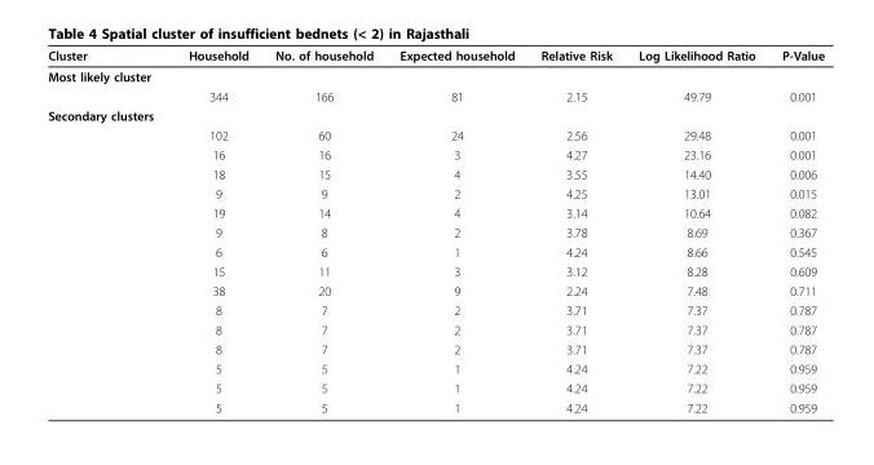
<table><thead><tr><td>Cluster</td><td>Household</td><td>No. of household</td><td>Expected household</td><td>Relative Risk</td><td>Log Likelihood Ratio</td><td>P-Value</td></tr></thead><tbody><tr><td colspan="7">Most likely cluster</td></tr><tr><td></td><td>344</td><td>166</td><td>81</td><td>2.15</td><td>49.79</td><td>0.001</td></tr><tr><td colspan="7">Secondary clusters</td></tr><tr><td></td><td>102</td><td>60</td><td>24</td><td>2.56</td><td>29.48</td><td>0.001</td></tr><tr><td></td><td>16</td><td>16</td><td>3</td><td>4.27</td><td>23.16</td><td>0.001</td></tr><tr><td></td><td>18</td><td>15</td><td>4</td><td>3.55</td><td>14.40</td><td>0.006</td></tr><tr><td></td><td>9</td><td>9</td><td>2</td><td>4.25</td><td>13.01</td><td>0.015</td></tr><tr><td></td><td>19</td><td>14</td><td>4</td><td>3.14</td><td>10.64</td><td>0.082</td></tr><tr><td></td><td>9</td><td>8</td><td>2</td><td>3.78</td><td>8.69</td><td>0.367</td></tr><tr><td></td><td>6</td><td>6</td><td>1</td><td>4.24</td><td>8.66</td><td>0.545</td></tr><tr><td></td><td>15</td><td>11</td><td>3</td><td>3.12</td><td>8.28</td><td>0.609</td></tr><tr><td></td><td>38</td><td>20</td><td>9</td><td>2.24</td><td>7.48</td><td>0.711</td></tr><tr><td></td><td>8</td><td>7</td><td>2</td><td>3.71</td><td>7.37</td><td>0.787</td></tr><tr><td></td><td>8</td><td>7</td><td>2</td><td>3.71</td><td>7.37</td><td>0.787</td></tr><tr><td></td><td>8</td><td>7</td><td>2</td><td>3.71</td><td>7.37</td><td>0.787</td></tr><tr><td></td><td>5</td><td>5</td><td>1</td><td>4.24</td><td>7.22</td><td>0.959</td></tr><tr><td></td><td>5</td><td>5</td><td>1</td><td>4.24</td><td>7.22</td><td>0.959</td></tr><tr><td></td><td>5</td><td>5</td><td>1</td><td>4.24</td><td>7.22</td><td>0.959</td></tr></tbody></table>